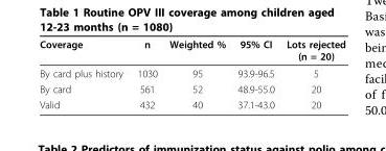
<table><thead><tr><td>Coverage</td><td>n</td><td>Weighted %</td><td>95% CI</td><td>Lots rejected (n = 20)</td></tr></thead><tbody><tr><td>By card plus history</td><td>1030</td><td>95</td><td>93.9-96.5</td><td>5</td></tr><tr><td>By card</td><td>561</td><td>52</td><td>48.9-55.0</td><td>20</td></tr><tr><td>Valid</td><td>432</td><td>40</td><td>37.1-43.0</td><td>20</td></tr></tbody></table>